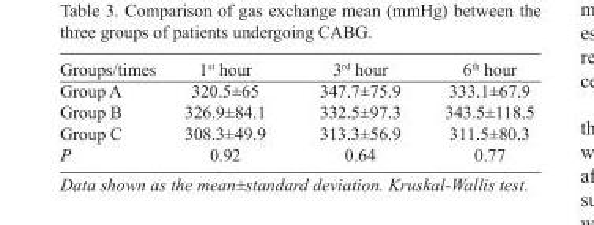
<table><thead><tr><td>Groups/times</td><td>1<sup>st</sup> hour</td><td>3<sup>rd</sup> hour</td><td>6<sup>th</sup> hour</td></tr></thead><tbody><tr><td>Group A</td><td>320.5±65</td><td>347.7±75.9</td><td>333.1±67.9</td></tr><tr><td>Group B</td><td>326.9±84.1</td><td>332.5±97.3</td><td>343.5±118.5</td></tr><tr><td>Group C</td><td>308.3±49.9</td><td>313.3±56.9</td><td>311.5±80.3</td></tr><tr><td>P</td><td>0.92</td><td>0.64</td><td>0.77</td></tr></tbody></table>